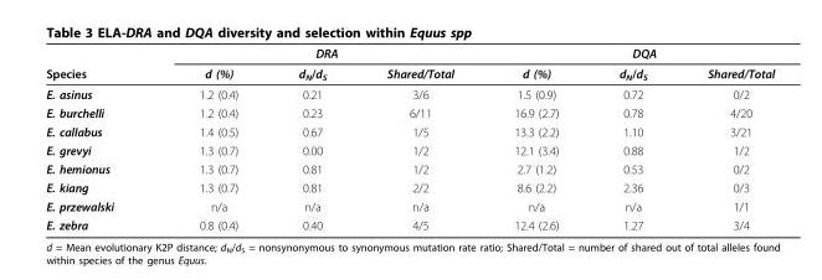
<table><thead><tr><td rowspan="2">Species</td><td colspan="3">DRA</td><td colspan="3">DQA</td></tr><tr><td>d (%)</td><td>d<sub>N</sub>/d<sub>S</sub></td><td>Shared/Total</td><td>d (%)</td><td>d<sub>N</sub>/d<sub>S</sub></td><td>Shared/Total</td></tr></thead><tbody><tr><td>E. asinus</td><td>1.2 (0.4)</td><td>0.21</td><td>3/6</td><td>1.5 (0.9)</td><td>0.72</td><td>0/2</td></tr><tr><td>E. burchelli</td><td>1.2 (0.4)</td><td>0.23</td><td>6/11</td><td>16.9 (2.7)</td><td>0.78</td><td>4/20</td></tr><tr><td>E. callabus</td><td>1.4 (0.5)</td><td>0.67</td><td>1/5</td><td>13.3 (2.2)</td><td>1.10</td><td>3/21</td></tr><tr><td>E. grevyi</td><td>1.3 (0.7)</td><td>0.00</td><td>1/2</td><td>12.1 (3.4)</td><td>0.88</td><td>1/2</td></tr><tr><td>E. hemionus</td><td>1.3 (0.7)</td><td>0.81</td><td>1/2</td><td>2.7 (1.2)</td><td>0.53</td><td>0/2</td></tr><tr><td>E. kiang</td><td>1.3 (0.7)</td><td>0.81</td><td>2/2</td><td>8.6 (2.2)</td><td>2.36</td><td>0/3</td></tr><tr><td>E. przewalski</td><td>n/a</td><td>n/a</td><td>n/a</td><td>n/a</td><td>n/a</td><td>1/1</td></tr><tr><td>E. zebra</td><td>0.8 (0.4)</td><td>0.40</td><td>4/5</td><td>12.4 (2.6)</td><td>1.27</td><td>3/4</td></tr></tbody></table>